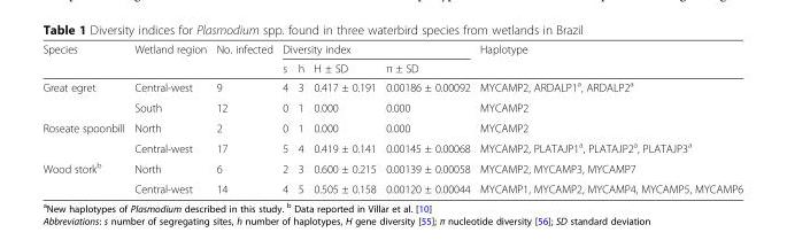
<table><thead><tr><td rowspan="2">Species</td><td rowspan="2">Wetland region</td><td rowspan="2">No. infected</td><td colspan="4">Diversity index</td><td rowspan="2">Haplotype</td></tr><tr><td>s</td><td>h</td><td>H ± SD</td><td>π ± SD</td></tr></thead><tbody><tr><td rowspan="2">Great egret</td><td>Central-west</td><td>9</td><td>4</td><td>3</td><td>0.417 ± 0.191</td><td>0.00186 ± 0.00092</td><td>MYCAMP2, ARDALP1<sup>a</sup>, ARDALP2<sup>a</sup></td></tr><tr><td>South</td><td>12</td><td>0</td><td>1</td><td>0.000</td><td>0.000</td><td>MYCAMP2</td></tr><tr><td rowspan="2">Roseate spoonbill</td><td>North</td><td>2</td><td>0</td><td>1</td><td>0.000</td><td>0.000</td><td>MYCAMP2</td></tr><tr><td>Central-west</td><td>17</td><td>5</td><td>4</td><td>0.419 ± 0.141</td><td>0.00145 ± 0.00068</td><td>MYCAMP2, PLATAJP1<sup>a</sup>, PLATAJP2<sup>a</sup>, PLATAJP3<sup>a</sup></td></tr><tr><td rowspan="2">Wood stork<sup>b</sup></td><td>North</td><td>6</td><td>2</td><td>3</td><td>0.600 ± 0.215</td><td>0.00139 ± 0.00058</td><td>MYCAMP2, MYCAMP3, MYCAMP7</td></tr><tr><td>Central-west</td><td>14</td><td>4</td><td>5</td><td>0.505 ± 0.158</td><td>0.00120 ± 0.00044</td><td>MYCAMP1, MYCAMP2, MYCAMP4, MYCAMP5, MYCAMP6</td></tr></tbody></table>